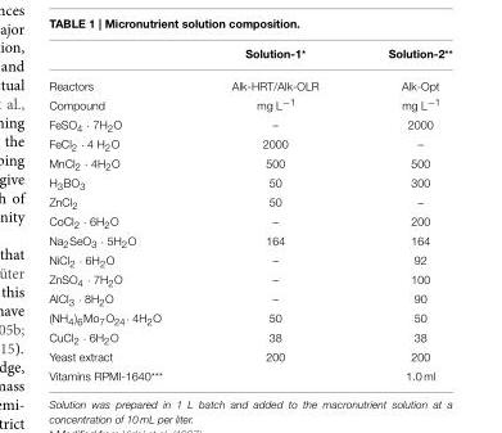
<table><thead><tr><td></td><td>Solution-1*</td><td>Solution-2**</td></tr></thead><tbody><tr><td>Reactors</td><td>Alk-HRT/Alk-OLR</td><td>Alk-Opt</td></tr><tr><td>Compound</td><td>mg L<sup>−1</sup></td><td>mg L<sup>−1</sup></td></tr><tr><td>FeSO<sub>4</sub> · 7H<sub>2</sub>O</td><td>–</td><td>2000</td></tr><tr><td>FeCl<sub>2</sub> · 4 H<sub>2</sub>O</td><td>2000</td><td>–</td></tr><tr><td>MnCl<sub>2</sub> · 4H<sub>2</sub>O</td><td>500</td><td>500</td></tr><tr><td>H<sub>3</sub>BO<sub>3</sub></td><td>50</td><td>300</td></tr><tr><td>ZnCl<sub>2</sub></td><td>50</td><td>–</td></tr><tr><td>CoCl<sub>2</sub> · 6H<sub>2</sub>O</td><td>–</td><td>200</td></tr><tr><td>Na<sub>2</sub>SeO<sub>3</sub> · 5H<sub>2</sub>O</td><td>164</td><td>164</td></tr><tr><td>NiCl<sub>2</sub> · 6H<sub>2</sub>O</td><td>–</td><td>92</td></tr><tr><td>ZnSO<sub>4</sub> · 7H<sub>2</sub>O</td><td>–</td><td>100</td></tr><tr><td>AlCl<sub>3</sub> · 8H<sub>2</sub>O</td><td>–</td><td>90</td></tr><tr><td>(NH<sub>4</sub>)<sub>6</sub>Mo<sub>7</sub>O<sub>24</sub>· 4H<sub>2</sub>O</td><td>50</td><td>50</td></tr><tr><td>CuCl<sub>2</sub> · 6H<sub>2</sub>O</td><td>38</td><td>38</td></tr><tr><td>Yeast extract</td><td>200</td><td>200</td></tr><tr><td>Vitamins RPMI-1640***</td><td></td><td>1.0 ml</td></tr></tbody></table>